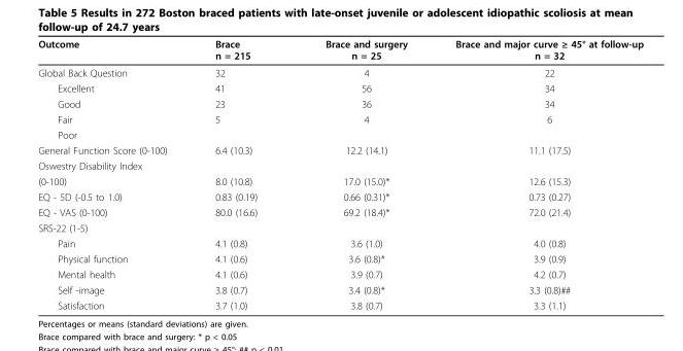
<table><thead><tr><td>Outcome</td><td>Brace n = 215</td><td>Brace and surgery n = 25</td><td>Brace and major curve ≥ 45° at follow-up n = 32</td></tr></thead><tbody><tr><td>Global Back Question</td><td>32</td><td>4</td><td>22</td></tr><tr><td>Excellent</td><td>41</td><td>56</td><td>34</td></tr><tr><td>Good</td><td>23</td><td>36</td><td>34</td></tr><tr><td>Fair</td><td>5</td><td>4</td><td>6</td></tr><tr><td colspan="4">Poor</td></tr><tr><td>General Function Score (0-100)</td><td>6.4 (10.3)</td><td>12.2 (14.1)</td><td>11.1 (17.5)</td></tr><tr><td colspan="4">Oswestry Disability Index</td></tr><tr><td>(0-100)</td><td>8.0 (10.8)</td><td>17.0 (15.0)*</td><td>12.6 (15.3)</td></tr><tr><td>EQ - 5D (-0.5 to 1.0)</td><td>0.83 (0.19)</td><td>0.66 (0.31)*</td><td>0.73 (0.27)</td></tr><tr><td>EQ - VAS (0-100)</td><td>80.0 (16.6)</td><td>69.2 (18.4)*</td><td>72.0 (21.4)</td></tr><tr><td colspan="4">SRS-22 (1-5)</td></tr><tr><td>Pain</td><td>4.1 (0.8)</td><td>3.6 (1.0)</td><td>4.0 (0.8)</td></tr><tr><td>Physical function</td><td>4.1 (0.6)</td><td>3.6 (0.8)*</td><td>3.9 (0.9)</td></tr><tr><td>Mental health</td><td>4.1 (0.6)</td><td>3.9 (0.7)</td><td>4.2 (0.7)</td></tr><tr><td>Self -image</td><td>3.8 (0.7)</td><td>3.4 (0.8)*</td><td>3.3 (0.8)##</td></tr><tr><td>Satisfaction</td><td>3.7 (1.0)</td><td>3.8 (0.7)</td><td>3.3 (1.1)</td></tr></tbody></table>